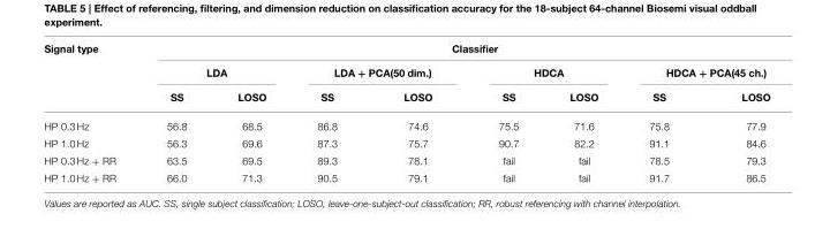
<table><thead><tr><td rowspan="3">Signal type</td><td colspan="8">Classifier</td></tr><tr><td colspan="2">LDA</td><td colspan="2">LDA + PCA(50 dim.)</td><td colspan="2">HDCA</td><td colspan="2">HDCA + PCA(45 ch.)</td></tr><tr><td>SS</td><td>LOSO</td><td>SS</td><td>LOSO</td><td>SS</td><td>LOSO</td><td>SS</td><td>LOSO</td></tr></thead><tbody><tr><td>HP 0.3 Hz</td><td>56.8</td><td>68.5</td><td>86.8</td><td>74.6</td><td>75.5</td><td>71.6</td><td>75.8</td><td>77.9</td></tr><tr><td>HP 1.0 Hz</td><td>56.3</td><td>69.6</td><td>87.3</td><td>75.7</td><td>90.7</td><td>82.2</td><td>91.1</td><td>84.6</td></tr><tr><td>HP 0.3 Hz + RR</td><td>63.5</td><td>69.5</td><td>89.3</td><td>78.1</td><td>fail</td><td>fail</td><td>78.5</td><td>79.3</td></tr><tr><td>HP 1.0 Hz + RR</td><td>66.0</td><td>71.3</td><td>90.5</td><td>79.1</td><td>fail</td><td>fail</td><td>91.7</td><td>86.5</td></tr></tbody></table>